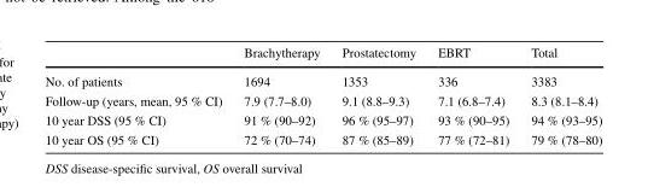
<table><thead><tr><td></td><td>Brachytherapy</td><td>Prostatectomy</td><td>EBRT</td><td>Total</td></tr></thead><tbody><tr><td>No. of patients</td><td>1694</td><td>1353</td><td>336</td><td>3383</td></tr><tr><td>Follow-up (years, mean, 95 % CI)</td><td>7.9 (7.7–8.0)</td><td>9.1 (8.8–9.3)</td><td>7.1 (6.8–7.4)</td><td>8.3 (8.1–8.4)</td></tr><tr><td>10 year DSS (95 % CI)</td><td>91 % (90–92)</td><td>96 % (95–97)</td><td>93 % (90–95)</td><td>94 % (93–95)</td></tr><tr><td>10 year OS (95 % CI)</td><td>72 % (70–74)</td><td>87 % (85–89)</td><td>77 % (72–81)</td><td>79 % (78–80)</td></tr></tbody></table>